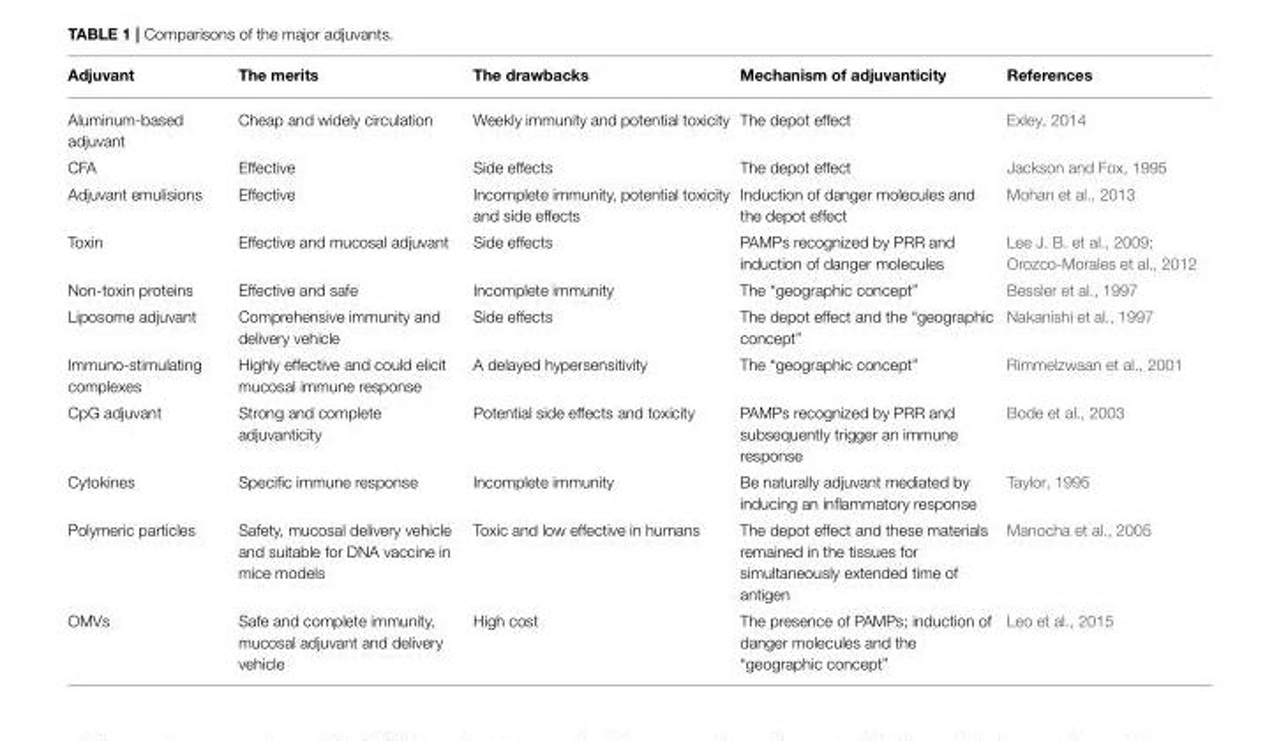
<table><thead><tr><td>Adjuvant</td><td>The merits</td><td>The drawbacks</td><td>Mechanism of adjuvanticity</td><td>References</td></tr></thead><tbody><tr><td>Aluminum-based adjuvant</td><td>Cheap and widely circulation</td><td>Weekly immunity and potential toxicity</td><td>The depot effect</td><td>Exley, 2014</td></tr><tr><td>CFA</td><td>Effective</td><td>Side effects</td><td>The depot effect</td><td>Jackson and Fox, 1995</td></tr><tr><td>Adjuvant emulisions</td><td>Effective</td><td>Incomplete immunity, potential toxicity and side effects</td><td>Induction of danger molecules and the depot effect</td><td>Mohan et al., 2013</td></tr><tr><td>Toxin</td><td>Effective and mucosal adjuvant</td><td>Side effects</td><td>PAMPs recognized by PRR and induction of danger molecules</td><td>Lee J. B. et al., 2009; Orozco-Morales et al., 2012</td></tr><tr><td>Non-toxin proteins</td><td>Effective and safe</td><td>Incomplete immunity</td><td>The “geographic concept”</td><td>Bessler et al., 1997</td></tr><tr><td>Liposome adjuvant</td><td>Comprehensive immunity and delivery vehicle</td><td>Side effects</td><td>The depot effect and the “geographic concept”</td><td>Nakanishi et al., 1997</td></tr><tr><td>Immuno-stimulating complexes</td><td>Highly effective and could elicit mucosal immune response</td><td>A delayed hypersensitivity</td><td>The “geographic concept”</td><td>Rimmelzwaan et al., 2001</td></tr><tr><td>CpG adjuvant</td><td>Strong and complete adjuvanticity</td><td>Potential side effects and toxicity</td><td>PAMPs recognized by PRR and subsequently trigger an immune response</td><td>Bode et al., 2003</td></tr><tr><td>Cytokines</td><td>Specific immune response</td><td>Incomplete immunity</td><td>Be naturally adjuvant mediated by inducing an inflammatory response</td><td>Taylor, 1995</td></tr><tr><td>Polymeric particles</td><td>Safety, mucosal delivery vehicle and suitable for DNA vaccine in mice models</td><td>Toxic and low effective in humans</td><td>The depot effect and these materials remained in the tissues for simultaneously extended time of antigen</td><td>Manocha et al., 2005</td></tr><tr><td>OMVs</td><td>Safe and complete immunity, mucosal adjuvant and delivery vehicle</td><td>High cost</td><td>The presence of PAMPs; induction of danger molecules and the “geographic concept”</td><td>Leo et al., 2015</td></tr></tbody></table>